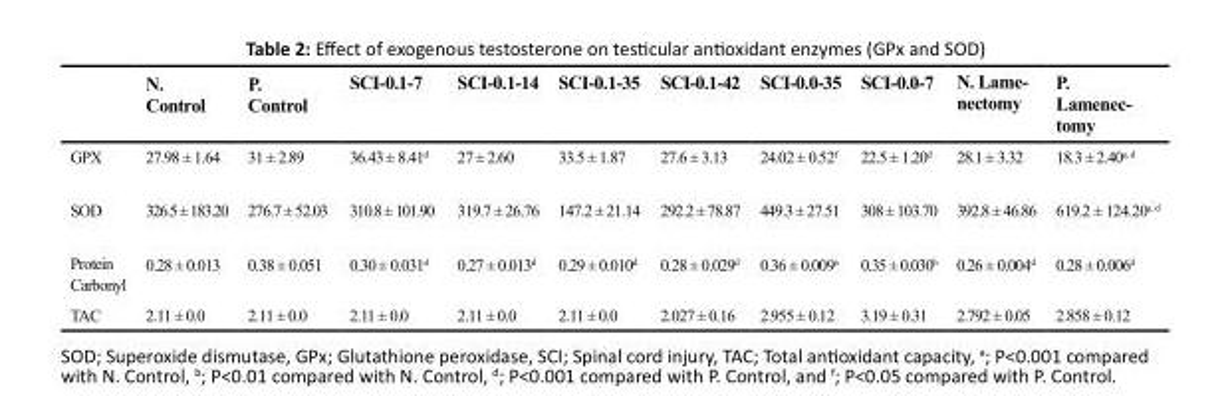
<table><thead><tr><td></td><td>N. Control</td><td>P. Control</td><td>SCI-0.1-7</td><td>SCI-0.1-14</td><td>SCI-0.1-35</td><td>SCI-0.1-42</td><td>SCI-0.0-35</td><td>SCI-0.0-7</td><td>N. Lame- nectomy</td><td>P. Lamenec- tomy</td></tr></thead><tbody><tr><td>GPX</td><td>27.98 ± 1.64</td><td>31 ± 2.89</td><td>36.43 ± 8.41<sup>d</sup></td><td>27 ± 2.60</td><td>33.5 ± 1.87</td><td>27.6 ± 3.13</td><td>24.02 ± 0.52<sup>f</sup></td><td>22.5 ± 1.20<sup>d</sup></td><td>28.1 ± 3.32</td><td>18.3 ± 2.40<sup>a, d</sup></td></tr><tr><td>SOD</td><td>326.5 ± 183.20</td><td>276.7 ± 52.03</td><td>310.8 ± 101.90</td><td>319.7 ± 26.76</td><td>147.2 ± 21.14</td><td>292.2 ± 78.87</td><td>449.3 ± 27.51</td><td>308 ± 103.70</td><td>392.8 ± 46.86</td><td>619.2 ± 124.20<sup>a, d</sup></td></tr><tr><td>Protein Carbonyl</td><td>0.28 ± 0.013</td><td>0.38 ± 0.051</td><td>0.30 ± 0.031<sup>d</sup></td><td>0.27 ± 0.013<sup>d</sup></td><td>0.29 ± 0.010<sup>d</sup></td><td>0.28 ± 0.029<sup>d</sup></td><td>0.36 ± 0.009<sup>a</sup></td><td>0.35 ± 0.030<sup>b</sup></td><td>0.26 ± 0.004<sup>d</sup></td><td>0.28 ± 0.006<sup>d</sup></td></tr><tr><td>TAC</td><td>2.11 ± 0.0</td><td>2.11 ± 0.0</td><td>2.11 ± 0.0</td><td>2.11 ± 0.0</td><td>2.11 ± 0.0</td><td>2.027 ± 0.16</td><td>2.955 ± 0.12</td><td>3.19 ± 0.31</td><td>2.792 ± 0.05</td><td>2.858 ± 0.12</td></tr></tbody></table>